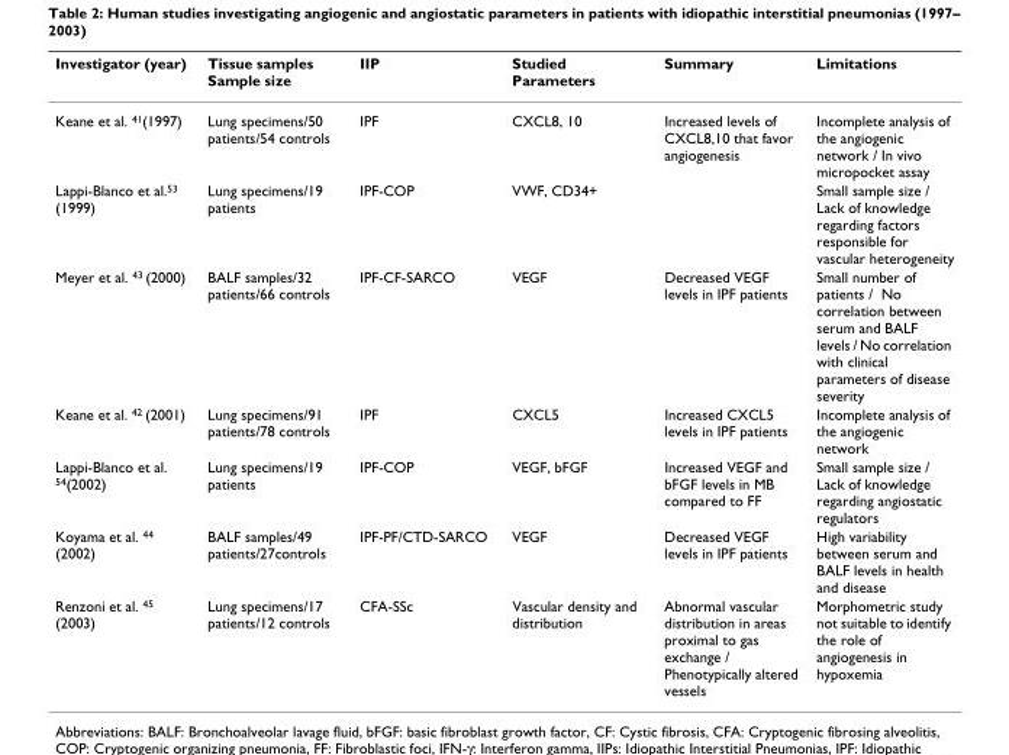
<table><thead><tr><td>Investigator (year)</td><td>Tissue samples Sample size</td><td>IIP</td><td>Studied Parameters</td><td>Summary</td><td>Limitations</td></tr></thead><tbody><tr><td>Keane et al. <sup>41</sup>(1997)</td><td>Lung specimens/50 patients/54 controls</td><td>IPF</td><td>CXCL8, 10</td><td>Increased levels of CXCL8,10 that favor angiogenesis</td><td>Incomplete analysis of the angiogenic network / In vivo micropocket assay</td></tr><tr><td>Lappi-Blanco et al.<sup>53</sup> (1999)</td><td>Lung specimens/19 patients</td><td>IPF-COP</td><td>VWF, CD34+</td><td></td><td>Small sample size / Lack of knowledge regarding factors responsible for vascular heterogeneity</td></tr><tr><td>Meyer et al. <sup>43</sup> (2000)</td><td>BALF samples/32 patients/66 controls</td><td>IPF-CF-SARCO</td><td>VEGF</td><td>Decreased VEGF levels in IPF patients</td><td>Small number of patients / No correlation between serum and BALF levels / No correlation with clinical parameters of disease severity</td></tr><tr><td>Keane et al. <sup>42</sup> (2001)</td><td>Lung specimens/91 patients/78 controls</td><td>IPF</td><td>CXCL5</td><td>Increased CXCL5 levels in IPF patients</td><td>Incomplete analysis of the angiogenic network</td></tr><tr><td>Lappi-Blanco et al. <sup>54</sup>(2002)</td><td>Lung specimens/19 patients</td><td>IPF-COP</td><td>VEGF, bFGF</td><td>Increased VEGF and bFGF levels in MB compared to FF</td><td>Small sample size / Lack of knowledge regarding angiostatic regulators</td></tr><tr><td>Koyama et al. <sup>44</sup> (2002)</td><td>BALF samples/49 patients/27controls</td><td>IPF-PF/CTD-SARCO</td><td>VEGF</td><td>Decreased VEGF levels in IPF patients</td><td>High variability between serum and BALF levels in health and disease</td></tr><tr><td>Renzoni et al. <sup>45</sup> (2003)</td><td>Lung specimens/17 patients/12 controls</td><td>CFA-SSc</td><td>Vascular density and distribution</td><td>Abnormal vascular distribution in areas proximal to gas exchange / Phenotypically altered vessels</td><td>Morphometric study not suitable to identify the role of angiogenesis in hypoxemia</td></tr></tbody></table>